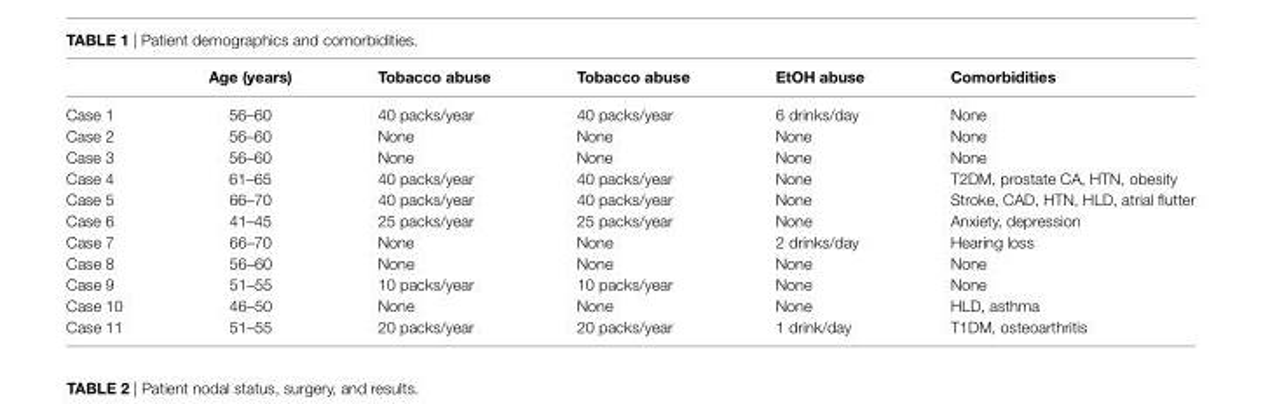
<table><thead><tr><td></td><td>age (years)</td><td>Tobacco abuse</td><td>Tobacco abuse</td><td>etOh abuse</td><td>comorbidities</td></tr></thead><tbody><tr><td>Case 1</td><td>56–60</td><td>40 packs/year</td><td>40 packs/year</td><td>6 drinks/day</td><td>None</td></tr><tr><td>Case 2</td><td>56–60</td><td>None</td><td>None</td><td>None</td><td>None</td></tr><tr><td>Case 3</td><td>56–60</td><td>None</td><td>None</td><td>None</td><td>None</td></tr><tr><td>Case 4</td><td>61–65</td><td>40 packs/year</td><td>40 packs/year</td><td>None</td><td>T2DM, prostate CA, HTN, obesity</td></tr><tr><td>Case 5</td><td>66–70</td><td>40 packs/year</td><td>40 packs/year</td><td>None</td><td>Stroke, CAD, HTN, HLD, atrial flutter</td></tr><tr><td>Case 6</td><td>41–45</td><td>25 packs/year</td><td>25 packs/year</td><td>None</td><td>Anxiety, depression</td></tr><tr><td>Case 7</td><td>66–70</td><td>None</td><td>None</td><td>2 drinks/day</td><td>Hearing loss</td></tr><tr><td>Case 8</td><td>56–60</td><td>None</td><td>None</td><td>None</td><td>None</td></tr><tr><td>Case 9</td><td>51–55</td><td>10 packs/year</td><td>10 packs/year</td><td>None</td><td>None</td></tr><tr><td>Case 10</td><td>46–50</td><td>None</td><td>None</td><td>None</td><td>HLD, asthma</td></tr><tr><td>Case 11</td><td>51–55</td><td>20 packs/year</td><td>20 packs/year</td><td>1 drink/day</td><td>T1DM, osteoarthritis</td></tr></tbody></table>